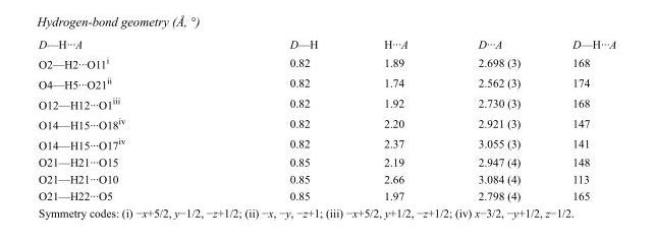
<table><tbody><tr><td>D—H···A</td><td>D—H</td><td>H···A</td><td>D···A</td><td>D—H···A</td></tr><tr><td>O2—H2···O11<sup>i</sup></td><td>0.82</td><td>1.89</td><td>2.698 (3)</td><td>168</td></tr><tr><td>O4—H5···O21<sup>ii</sup></td><td>0.82</td><td>1.74</td><td>2.562 (3)</td><td>174</td></tr><tr><td>O12—H12···O1<sup>iii</sup></td><td>0.82</td><td>1.92</td><td>2.730 (3)</td><td>168</td></tr><tr><td>O14—H15···O18<sup>iv</sup></td><td>0.82</td><td>2.20</td><td>2.921 (3)</td><td>147</td></tr><tr><td>O14—H15···O17<sup>iv</sup></td><td>0.82</td><td>2.37</td><td>3.055 (3)</td><td>141</td></tr><tr><td>O21—H21···O15</td><td>0.85</td><td>2.19</td><td>2.947 (4)</td><td>148</td></tr><tr><td>O21—H21···O10</td><td>0.85</td><td>2.66</td><td>3.084 (4)</td><td>113</td></tr><tr><td>O21—H22···O5</td><td>0.85</td><td>1.97</td><td>2.798 (4)</td><td>165</td></tr></tbody></table>